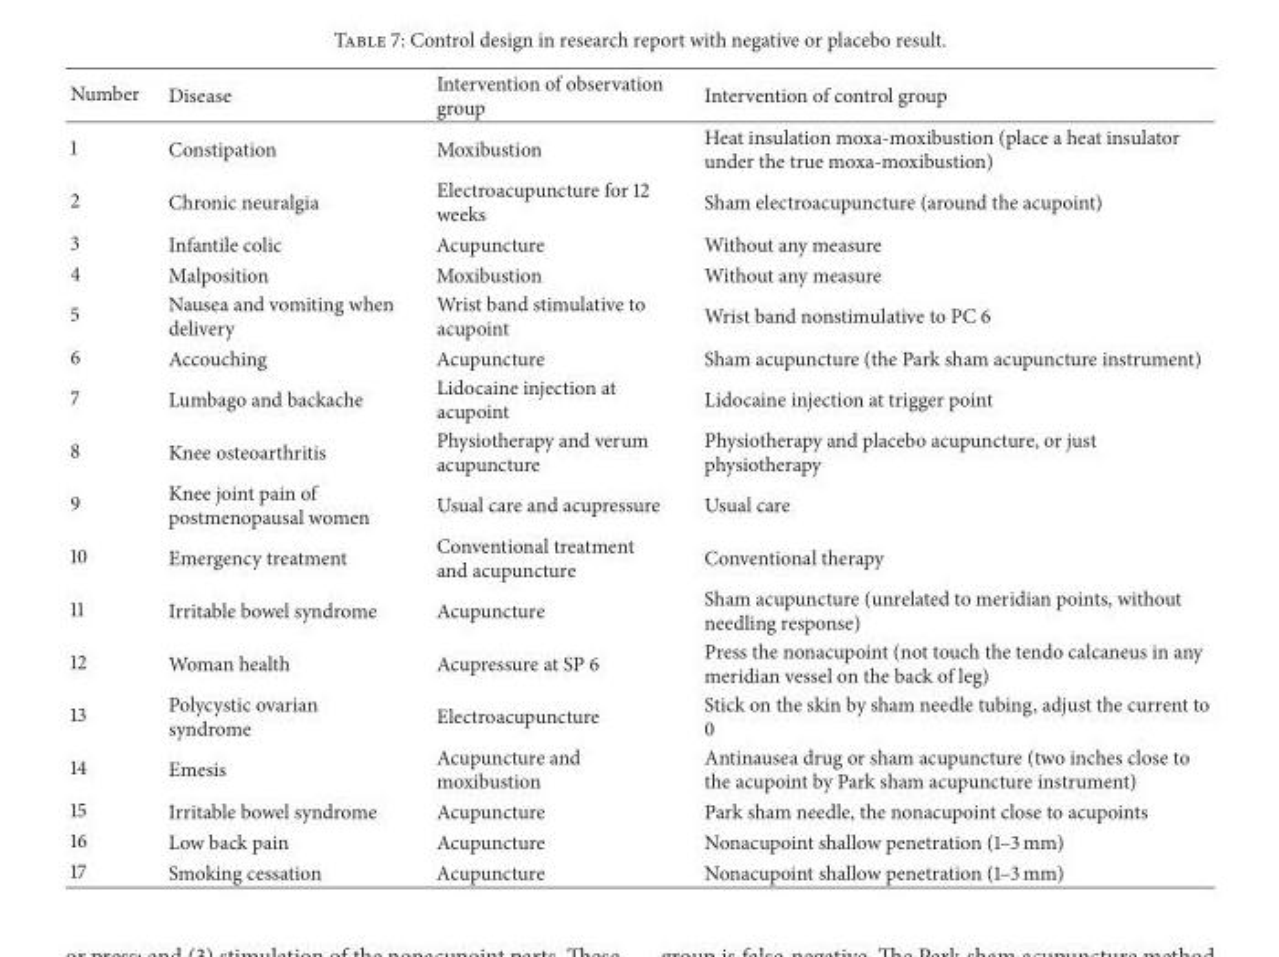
<table><thead><tr><td>Number</td><td>Disease</td><td>Intervention of observation group</td><td>Intervention of control group</td></tr></thead><tbody><tr><td>1</td><td>Constipation</td><td>Moxibustion</td><td>Heat insulation moxa-moxibustion (place a heat insulator under the true moxa-moxibustion)</td></tr><tr><td>2</td><td>Chronic neuralgia</td><td>Electroacupuncture for 12 weeks</td><td>Sham electroacupuncture (around the acupoint)</td></tr><tr><td>3</td><td>Infantile colic</td><td>Acupuncture</td><td>Without any measure</td></tr><tr><td>4</td><td>Malposition</td><td>Moxibustion</td><td>Without any measure</td></tr><tr><td>5</td><td>Nausea and vomiting when delivery</td><td>Wrist band stimulative to acupoint</td><td>Wrist band nonstimulative to PC 6</td></tr><tr><td>6</td><td>Accouching</td><td>Acupuncture</td><td>Sham acupuncture (the Park sham acupuncture instrument)</td></tr><tr><td>7</td><td>Lumbago and backache</td><td>Lidocaine injection at acupoint</td><td>Lidocaine injection at trigger point</td></tr><tr><td>8</td><td>Knee osteoarthritis</td><td>Physiotherapy and verum acupuncture</td><td>Physiotherapy and placebo acupuncture, or just physiotherapy</td></tr><tr><td>9</td><td>Knee joint pain of postmenopausal women</td><td>Usual care and acupressure</td><td>Usual care</td></tr><tr><td>10</td><td>Emergency treatment</td><td>Conventional treatment and acupuncture</td><td>Conventional therapy</td></tr><tr><td>11</td><td>Irritable bowel syndrome</td><td>Acupuncture</td><td>Sham acupuncture (unrelated to meridian points, without needling response)</td></tr><tr><td>12</td><td>Woman health</td><td>Acupressure at SP 6</td><td>Press the nonacupoint (not touch the tendo calcaneus in any meridian vessel on the back of leg)</td></tr><tr><td>13</td><td>Polycystic ovarian syndrome</td><td>Electroacupuncture</td><td>Stick on the skin by sham needle tubing, adjust the current to 0</td></tr><tr><td>14</td><td>Emesis</td><td>Acupuncture and moxibustion</td><td>Antinausea drug or sham acupuncture (two inches close to the acupoint by Park sham acupuncture instrument)</td></tr><tr><td>15</td><td>Irritable bowel syndrome</td><td>Acupuncture</td><td>Park sham needle, the nonacupoint close to acupoints</td></tr><tr><td>16</td><td>Low back pain</td><td>Acupuncture</td><td>Nonacupoint shallow penetration (1–3 mm)</td></tr><tr><td>17</td><td>Smoking cessation</td><td>Acupuncture</td><td>Nonacupoint shallow penetration (1–3 mm)</td></tr></tbody></table>